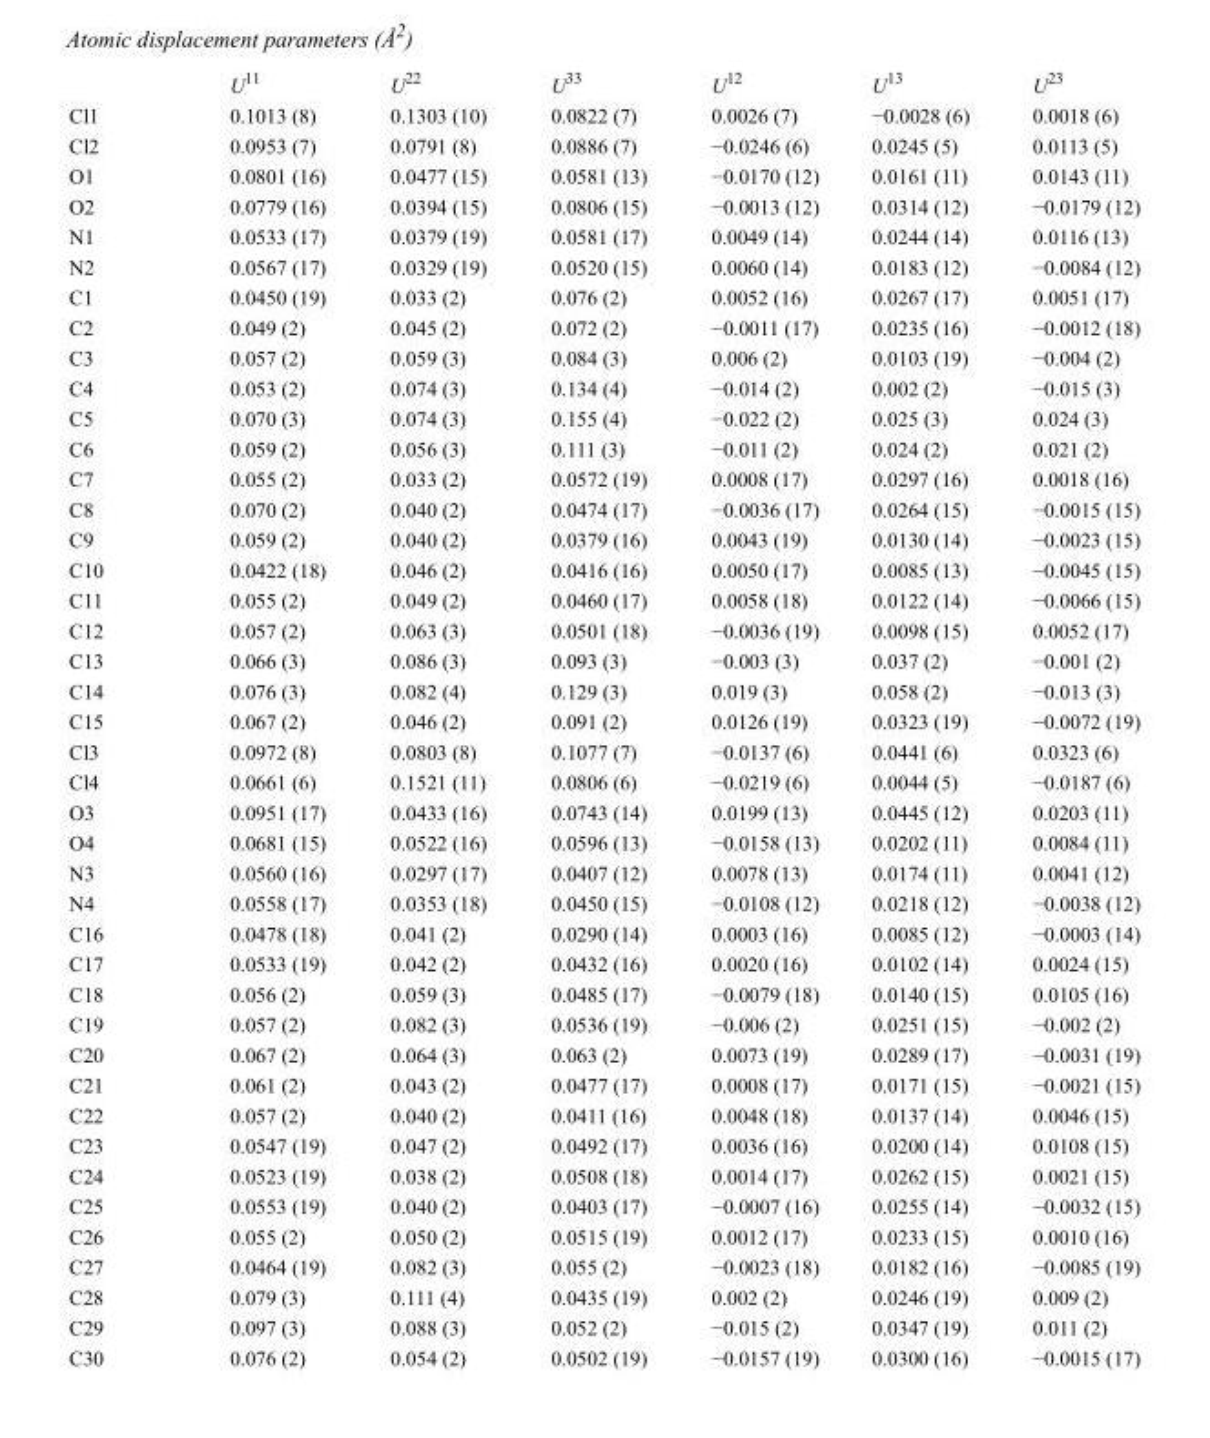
<table><thead><tr><td></td><td>U<sup>11</sup></td><td>U<sup>22</sup></td><td>U<sup>33</sup></td><td>U<sup>12</sup></td><td>U<sup>13</sup></td><td>U<sup>23</sup></td></tr></thead><tbody><tr><td>Cl1</td><td>0.1013 (8)</td><td>0.1303 (10)</td><td>0.0822 (7)</td><td>0.0026 (7)</td><td>−0.0028 (6)</td><td>0.0018 (6)</td></tr><tr><td>Cl2</td><td>0.0953 (7)</td><td>0.0791 (8)</td><td>0.0886 (7)</td><td>−0.0246 (6)</td><td>0.0245 (5)</td><td>0.0113 (5)</td></tr><tr><td>O1</td><td>0.0801 (16)</td><td>0.0477 (15)</td><td>0.0581 (13)</td><td>−0.0170 (12)</td><td>0.0161 (11)</td><td>0.0143 (11)</td></tr><tr><td>O2</td><td>0.0779 (16)</td><td>0.0394 (15)</td><td>0.0806 (15)</td><td>−0.0013 (12)</td><td>0.0314 (12)</td><td>−0.0179 (12)</td></tr><tr><td>N1</td><td>0.0533 (17)</td><td>0.0379 (19)</td><td>0.0581 (17)</td><td>0.0049 (14)</td><td>0.0244 (14)</td><td>0.0116 (13)</td></tr><tr><td>N2</td><td>0.0567 (17)</td><td>0.0329 (19)</td><td>0.0520 (15)</td><td>0.0060 (14)</td><td>0.0183 (12)</td><td>−0.0084 (12)</td></tr><tr><td>C1</td><td>0.0450 (19)</td><td>0.033 (2)</td><td>0.076 (2)</td><td>0.0052 (16)</td><td>0.0267 (17)</td><td>0.0051 (17)</td></tr><tr><td>C2</td><td>0.049 (2)</td><td>0.045 (2)</td><td>0.072 (2)</td><td>−0.0011 (17)</td><td>0.0235 (16)</td><td>−0.0012 (18)</td></tr><tr><td>C3</td><td>0.057 (2)</td><td>0.059 (3)</td><td>0.084 (3)</td><td>0.006 (2)</td><td>0.0103 (19)</td><td>−0.004 (2)</td></tr><tr><td>C4</td><td>0.053 (2)</td><td>0.074 (3)</td><td>0.134 (4)</td><td>−0.014 (2)</td><td>0.002 (2)</td><td>−0.015 (3)</td></tr><tr><td>C5</td><td>0.070 (3)</td><td>0.074 (3)</td><td>0.155 (4)</td><td>−0.022 (2)</td><td>0.025 (3)</td><td>0.024 (3)</td></tr><tr><td>C6</td><td>0.059 (2)</td><td>0.056 (3)</td><td>0.111 (3)</td><td>−0.011 (2)</td><td>0.024 (2)</td><td>0.021 (2)</td></tr><tr><td>C7</td><td>0.055 (2)</td><td>0.033 (2)</td><td>0.0572 (19)</td><td>0.0008 (17)</td><td>0.0297 (16)</td><td>0.0018 (16)</td></tr><tr><td>C8</td><td>0.070 (2)</td><td>0.040 (2)</td><td>0.0474 (17)</td><td>−0.0036 (17)</td><td>0.0264 (15)</td><td>−0.0015 (15)</td></tr><tr><td>C9</td><td>0.059 (2)</td><td>0.040 (2)</td><td>0.0379 (16)</td><td>0.0043 (19)</td><td>0.0130 (14)</td><td>−0.0023 (15)</td></tr><tr><td>C10</td><td>0.0422 (18)</td><td>0.046 (2)</td><td>0.0416 (16)</td><td>0.0050 (17)</td><td>0.0085 (13)</td><td>−0.0045 (15)</td></tr><tr><td>C11</td><td>0.055 (2)</td><td>0.049 (2)</td><td>0.0460 (17)</td><td>0.0058 (18)</td><td>0.0122 (14)</td><td>−0.0066 (15)</td></tr><tr><td>C12</td><td>0.057 (2)</td><td>0.063 (3)</td><td>0.0501 (18)</td><td>−0.0036 (19)</td><td>0.0098 (15)</td><td>0.0052 (17)</td></tr><tr><td>C13</td><td>0.066 (3)</td><td>0.086 (3)</td><td>0.093 (3)</td><td>−0.003 (3)</td><td>0.037 (2)</td><td>−0.001 (2)</td></tr><tr><td>C14</td><td>0.076 (3)</td><td>0.082 (4)</td><td>0.129 (3)</td><td>0.019 (3)</td><td>0.058 (2)</td><td>−0.013 (3)</td></tr><tr><td>C15</td><td>0.067 (2)</td><td>0.046 (2)</td><td>0.091 (2)</td><td>0.0126 (19)</td><td>0.0323 (19)</td><td>−0.0072 (19)</td></tr><tr><td>Cl3</td><td>0.0972 (8)</td><td>0.0803 (8)</td><td>0.1077 (7)</td><td>−0.0137 (6)</td><td>0.0441 (6)</td><td>0.0323 (6)</td></tr><tr><td>Cl4</td><td>0.0661 (6)</td><td>0.1521 (11)</td><td>0.0806 (6)</td><td>−0.0219 (6)</td><td>0.0044 (5)</td><td>−0.0187 (6)</td></tr><tr><td>O3</td><td>0.0951 (17)</td><td>0.0433 (16)</td><td>0.0743 (14)</td><td>0.0199 (13)</td><td>0.0445 (12)</td><td>0.0203 (11)</td></tr><tr><td>O4</td><td>0.0681 (15)</td><td>0.0522 (16)</td><td>0.0596 (13)</td><td>−0.0158 (13)</td><td>0.0202 (11)</td><td>0.0084 (11)</td></tr><tr><td>N3</td><td>0.0560 (16)</td><td>0.0297 (17)</td><td>0.0407 (12)</td><td>0.0078 (13)</td><td>0.0174 (11)</td><td>0.0041 (12)</td></tr><tr><td>N4</td><td>0.0558 (17)</td><td>0.0353 (18)</td><td>0.0450 (15)</td><td>−0.0108 (12)</td><td>0.0218 (12)</td><td>−0.0038 (12)</td></tr><tr><td>C16</td><td>0.0478 (18)</td><td>0.041 (2)</td><td>0.0290 (14)</td><td>0.0003 (16)</td><td>0.0085 (12)</td><td>−0.0003 (14)</td></tr><tr><td>C17</td><td>0.0533 (19)</td><td>0.042 (2)</td><td>0.0432 (16)</td><td>0.0020 (16)</td><td>0.0102 (14)</td><td>0.0024 (15)</td></tr><tr><td>C18</td><td>0.056 (2)</td><td>0.059 (3)</td><td>0.0485 (17)</td><td>−0.0079 (18)</td><td>0.0140 (15)</td><td>0.0105 (16)</td></tr><tr><td>C19</td><td>0.057 (2)</td><td>0.082 (3)</td><td>0.0536 (19)</td><td>−0.006 (2)</td><td>0.0251 (15)</td><td>−0.002 (2)</td></tr><tr><td>C20</td><td>0.067 (2)</td><td>0.064 (3)</td><td>0.063 (2)</td><td>0.0073 (19)</td><td>0.0289 (17)</td><td>−0.0031 (19)</td></tr><tr><td>C21</td><td>0.061 (2)</td><td>0.043 (2)</td><td>0.0477 (17)</td><td>0.0008 (17)</td><td>0.0171 (15)</td><td>−0.0021 (15)</td></tr><tr><td>C22</td><td>0.057 (2)</td><td>0.040 (2)</td><td>0.0411 (16)</td><td>0.0048 (18)</td><td>0.0137 (14)</td><td>0.0046 (15)</td></tr><tr><td>C23</td><td>0.0547 (19)</td><td>0.047 (2)</td><td>0.0492 (17)</td><td>0.0036 (16)</td><td>0.0200 (14)</td><td>0.0108 (15)</td></tr><tr><td>C24</td><td>0.0523 (19)</td><td>0.038 (2)</td><td>0.0508 (18)</td><td>0.0014 (17)</td><td>0.0262 (15)</td><td>0.0021 (15)</td></tr><tr><td>C25</td><td>0.0553 (19)</td><td>0.040 (2)</td><td>0.0403 (17)</td><td>−0.0007 (16)</td><td>0.0255 (14)</td><td>−0.0032 (15)</td></tr><tr><td>C26</td><td>0.055 (2)</td><td>0.050 (2)</td><td>0.0515 (19)</td><td>0.0012 (17)</td><td>0.0233 (15)</td><td>0.0010 (16)</td></tr><tr><td>C27</td><td>0.0464 (19)</td><td>0.082 (3)</td><td>0.055 (2)</td><td>−0.0023 (18)</td><td>0.0182 (16)</td><td>−0.0085 (19)</td></tr><tr><td>C28</td><td>0.079 (3)</td><td>0.111 (4)</td><td>0.0435 (19)</td><td>0.002 (2)</td><td>0.0246 (19)</td><td>0.009 (2)</td></tr><tr><td>C29</td><td>0.097 (3)</td><td>0.088 (3)</td><td>0.052 (2)</td><td>−0.015 (2)</td><td>0.0347 (19)</td><td>0.011 (2)</td></tr><tr><td>C30</td><td>0.076 (2)</td><td>0.054 (2)</td><td>0.0502 (19)</td><td>−0.0157 (19)</td><td>0.0300 (16)</td><td>−0.0015 (17)</td></tr></tbody></table>